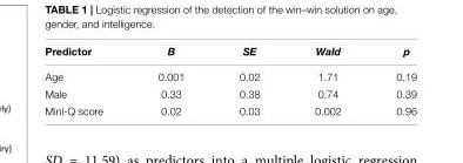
<table><thead><tr><td>Predictor</td><td>B</td><td>SE</td><td>Wald</td><td>p</td></tr></thead><tbody><tr><td>Age</td><td>0.001</td><td>0.02</td><td>1.71</td><td>0.19</td></tr><tr><td>Male</td><td>0.33</td><td>0.38</td><td>0.74</td><td>0.39</td></tr><tr><td>Mini-Q score</td><td>0.02</td><td>0.03</td><td>0.002</td><td>0.96</td></tr></tbody></table>